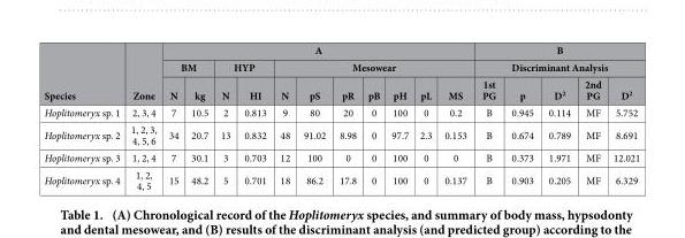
<table><thead><tr><td rowspan="3">Species</td><td rowspan="3">Zone</td><td colspan="11">A</td><td rowspan="2" colspan="5">B Discriminant Analysis</td></tr><tr><td colspan="2">BM</td><td colspan="2">HYP</td><td colspan="7">Mesowear</td></tr><tr><td>N</td><td>kg</td><td>N</td><td>HI</td><td>N</td><td>pS</td><td>pR</td><td>pB</td><td>pH</td><td>pL</td><td>MS</td><td>1st PG</td><td>p</td><td>D<sup>2</sup></td><td>2nd PG</td><td>D<sup>2</sup></td></tr></thead><tbody><tr><td>Hoplitomeryx sp. 1</td><td>2, 3, 4</td><td>7</td><td>10.5</td><td>2</td><td>0.813</td><td>9</td><td>80</td><td>20</td><td>0</td><td>100</td><td>0</td><td>0.2</td><td>B</td><td>0.945</td><td>0.114</td><td>MF</td><td>5.752</td></tr><tr><td>Hoplitomeryx sp. 2</td><td>1, 2, 3, 4, 5, 6</td><td>34</td><td>20.7</td><td>13</td><td>0.832</td><td>48</td><td>91.02</td><td>8.98</td><td>0</td><td>97.7</td><td>2.3</td><td>0.153</td><td>B</td><td>0.674</td><td>0.789</td><td>MF</td><td>8.691</td></tr><tr><td>Hoplitomeryx sp. 3</td><td>1, 2, 4</td><td>7</td><td>30.1</td><td>3</td><td>0.703</td><td>12</td><td>100</td><td>0</td><td>0</td><td>100</td><td>0</td><td>0</td><td>B</td><td>0.373</td><td>1.971</td><td>MF</td><td>12.021</td></tr><tr><td>Hoplitomeryx sp. 4</td><td>1, 2, 4, 5</td><td>15</td><td>48.2</td><td>5</td><td>0.701</td><td>18</td><td>86.2</td><td>17.8</td><td>0</td><td>100</td><td>0</td><td>0.137</td><td>B</td><td>0.903</td><td>0.205</td><td>MF</td><td>6.329</td></tr></tbody></table>